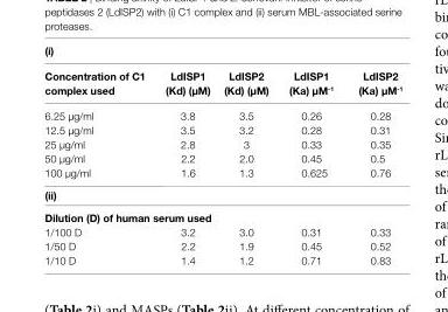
<table><thead><tr><td colspan="5">(i)</td></tr><tr><td>concentration of c1 complex used</td><td>ldisP1 (Kd) (µM)</td><td>ldisP2 (Kd) (µM)</td><td>ldisP1 (Ka) µM<sup>-1</sup></td><td>ldisP2 (Ka) µM<sup>-1</sup></td></tr></thead><tbody><tr><td>6.25 µg/ml</td><td>3.8</td><td>3.5</td><td>0.26</td><td>0.28</td></tr><tr><td>12.5 µg/ml</td><td>3.5</td><td>3.2</td><td>0.28</td><td>0.31</td></tr><tr><td>25 µg/ml</td><td>2.8</td><td>3</td><td>0.33</td><td>0.35</td></tr><tr><td>50 µg/ml</td><td>2.2</td><td>2.0</td><td>0.45</td><td>0.5</td></tr><tr><td>100 µg/ml</td><td>1.6</td><td>1.3</td><td>0.625</td><td>0.76</td></tr><tr><td colspan="5">(ii)</td></tr><tr><td colspan="5">Dilution (D) of human serum used</td></tr><tr><td>1/100 D</td><td>3.2</td><td>3.0</td><td>0.31</td><td>0.33</td></tr><tr><td>1/50 D</td><td>2.2</td><td>1.9</td><td>0.45</td><td>0.52</td></tr><tr><td>1/10 D</td><td>1.4</td><td>1.2</td><td>0.71</td><td>0.83</td></tr></tbody></table>